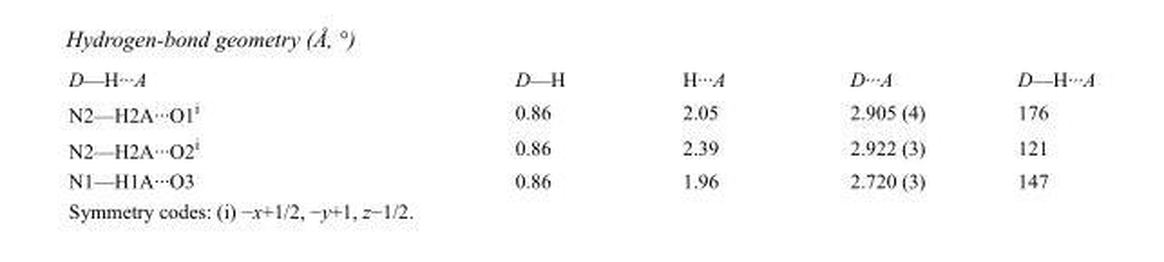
<table><tbody><tr><td>D—H···A</td><td>D—H</td><td>H···A</td><td>D···A</td><td>D—H···A</td></tr><tr><td>N2—H2A···O1<sup>i</sup></td><td>0.86</td><td>2.05</td><td>2.905 (4)</td><td>176</td></tr><tr><td>N2—H2A···O2<sup>i</sup></td><td>0.86</td><td>2.39</td><td>2.922 (3)</td><td>121</td></tr><tr><td>N1—H1A···O3</td><td>0.86</td><td>1.96</td><td>2.720 (3)</td><td>147</td></tr></tbody></table>